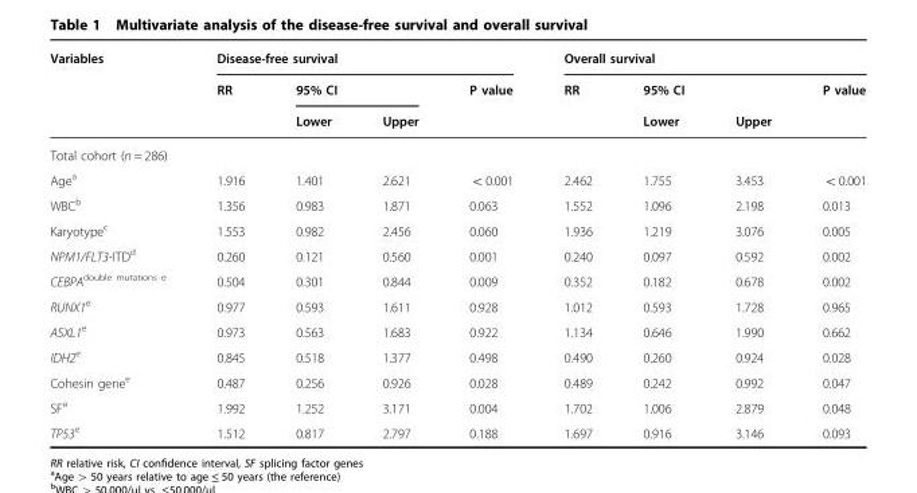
<table><thead><tr><td rowspan="3">Variables</td><td colspan="4">Disease-free survival</td><td colspan="4">Overall survival</td></tr><tr><td rowspan="2">RR</td><td colspan="2">95% CI</td><td rowspan="2">P value</td><td rowspan="2">RR</td><td rowspan="2">95% CI Lower</td><td rowspan="2">Upper</td><td rowspan="2">P value</td></tr><tr><td>Lower</td><td>Upper</td></tr></thead><tbody><tr><td colspan="9">Total cohort (n = 286)</td></tr><tr><td>Age<sup>a</sup></td><td>1.916</td><td>1.401</td><td>2.621</td><td>&lt;0.001</td><td>2.462</td><td>1.755</td><td>3.453</td><td>&lt;0.001</td></tr><tr><td>WBC<sup>b</sup></td><td>1.356</td><td>0.983</td><td>1.871</td><td>0.063</td><td>1.552</td><td>1.096</td><td>2.198</td><td>0.013</td></tr><tr><td>Karyotype<sup>c</sup></td><td>1.553</td><td>0.982</td><td>2.456</td><td>0.060</td><td>1.936</td><td>1.219</td><td>3.076</td><td>0.005</td></tr><tr><td>NPM1/FLT3-ITD<sup>d</sup></td><td>0.260</td><td>0.121</td><td>0.560</td><td>0.001</td><td>0.240</td><td>0.097</td><td>0.592</td><td>0.002</td></tr><tr><td>CEBPA<sup>double mutations e</sup></td><td>0.504</td><td>0.301</td><td>0.844</td><td>0.009</td><td>0.352</td><td>0.182</td><td>0.678</td><td>0.002</td></tr><tr><td>RUNX1<sup>e</sup></td><td>0.977</td><td>0.593</td><td>1.611</td><td>0.928</td><td>1.012</td><td>0.593</td><td>1.728</td><td>0.965</td></tr><tr><td>ASXL1<sup>e</sup></td><td>0.973</td><td>0.563</td><td>1.683</td><td>0.922</td><td>1.134</td><td>0.646</td><td>1.990</td><td>0.662</td></tr><tr><td>IDH2<sup>e</sup></td><td>0.845</td><td>0.518</td><td>1.377</td><td>0.498</td><td>0.490</td><td>0.260</td><td>0.924</td><td>0.028</td></tr><tr><td>Cohesin gene<sup>e</sup></td><td>0.487</td><td>0.256</td><td>0.926</td><td>0.028</td><td>0.489</td><td>0.242</td><td>0.992</td><td>0.047</td></tr><tr><td>SF<sup>e</sup></td><td>1.992</td><td>1.252</td><td>3.171</td><td>0.004</td><td>1.702</td><td>1.006</td><td>2.879</td><td>0.048</td></tr><tr><td>TP53<sup>e</sup></td><td>1.512</td><td>0.817</td><td>2.797</td><td>0.188</td><td>1.697</td><td>0.916</td><td>3.146</td><td>0.093</td></tr></tbody></table>